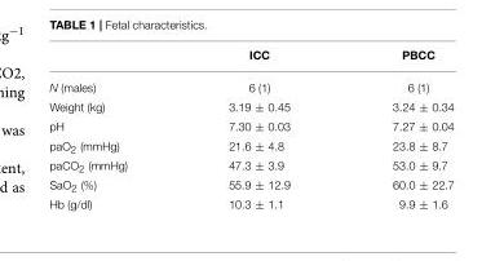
<table><thead><tr><td></td><td>ICC</td><td>PBCC</td></tr></thead><tbody><tr><td>N (males)</td><td>6 (1)</td><td>6 (1)</td></tr><tr><td>Weight (kg)</td><td>3.19 ± 0.45</td><td>3.24 ± 0.34</td></tr><tr><td>pH</td><td>7.30 ± 0.03</td><td>7.27 ± 0.04</td></tr><tr><td>paO<sub>2</sub> (mmHg)</td><td>21.6 ± 4.8</td><td>23.8 ± 8.7</td></tr><tr><td>paCO<sub>2</sub> (mmHg)</td><td>47.3 ± 3.9</td><td>53.0 ± 9.7</td></tr><tr><td>SaO<sub>2</sub> (%)</td><td>55.9 ± 12.9</td><td>60.0 ± 22.7</td></tr><tr><td>Hb (g/dl)</td><td>10.3 ± 1.1</td><td>9.9 ± 1.6</td></tr></tbody></table>